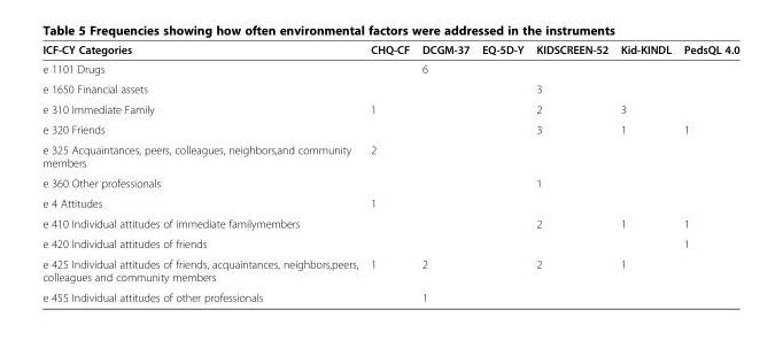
<table><thead><tr><td>ICF-CY Categories</td><td>CHQ-CF</td><td>DCGM-37</td><td>EQ-5D-Y</td><td>KIDSCREEN-52</td><td>Kid-KINDL</td><td>PedsQL 4.0</td></tr></thead><tbody><tr><td>e 1101 Drugs</td><td></td><td>6</td><td></td><td></td><td></td><td></td></tr><tr><td>e 1650 Financial assets</td><td></td><td></td><td></td><td>3</td><td></td><td></td></tr><tr><td>e 310 Immediate Family</td><td>1</td><td></td><td></td><td>2</td><td>3</td><td></td></tr><tr><td>e 320 Friends</td><td></td><td></td><td></td><td>3</td><td>1</td><td>1</td></tr><tr><td>e 325 Acquaintances, peers, colleagues, neighbors,and community members</td><td>2</td><td></td><td></td><td></td><td></td><td></td></tr><tr><td>e 360 Other professionals</td><td></td><td></td><td></td><td>1</td><td></td><td></td></tr><tr><td>e 4 Attitudes</td><td>1</td><td></td><td></td><td></td><td></td><td></td></tr><tr><td>e 410 Individual attitudes of immediate familymembers</td><td></td><td></td><td></td><td>2</td><td>1</td><td>1</td></tr><tr><td>e 420 Individual attitudes of friends</td><td></td><td></td><td></td><td></td><td></td><td>1</td></tr><tr><td>e 425 Individual attitudes of friends, acquaintances, neighbors,peers, colleagues and community members</td><td>1</td><td>2</td><td></td><td>2</td><td>1</td><td></td></tr><tr><td>e 455 Individual attitudes of other professionals</td><td></td><td>1</td><td></td><td></td><td></td><td></td></tr></tbody></table>